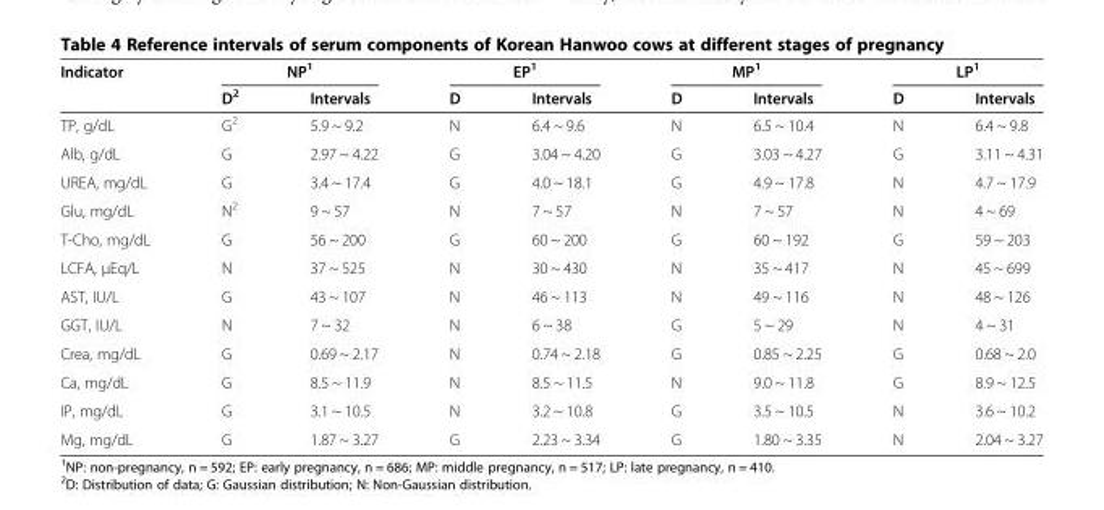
<table><thead><tr><td rowspan="2">Indicator</td><td colspan="2">NP<sup>1</sup></td><td colspan="2">EP<sup>1</sup></td><td colspan="2">MP<sup>1</sup></td><td colspan="2">LP<sup>1</sup></td></tr><tr><td>D<sup>2</sup></td><td>Intervals</td><td>D</td><td>Intervals</td><td>D</td><td>Intervals</td><td>D</td><td>Intervals</td></tr></thead><tbody><tr><td>TP, g/dL</td><td>G<sup>2</sup></td><td>5.9 ~ 9.2</td><td>N</td><td>6.4 ~ 9.6</td><td>N</td><td>6.5 ~ 10.4</td><td>N</td><td>6.4 ~ 9.8</td></tr><tr><td>Alb, g/dL</td><td>G</td><td>2.97 ~ 4.22</td><td>G</td><td>3.04 ~ 4.20</td><td>G</td><td>3.03 ~ 4.27</td><td>G</td><td>3.11 ~ 4.31</td></tr><tr><td>UREA, mg/dL</td><td>G</td><td>3.4 ~ 17.4</td><td>G</td><td>4.0 ~ 18.1</td><td>G</td><td>4.9 ~ 17.8</td><td>N</td><td>4.7 ~ 17.9</td></tr><tr><td>Glu, mg/dL</td><td>N<sup>2</sup></td><td>9 ~ 57</td><td>N</td><td>7 ~ 57</td><td>N</td><td>7 ~ 57</td><td>N</td><td>4 ~ 69</td></tr><tr><td>T-Cho, mg/dL</td><td>G</td><td>56 ~ 200</td><td>G</td><td>60 ~ 200</td><td>G</td><td>60 ~ 192</td><td>G</td><td>59 ~ 203</td></tr><tr><td>LCFA, μEq/L</td><td>N</td><td>37 ~ 525</td><td>N</td><td>30 ~ 430</td><td>N</td><td>35 ~ 417</td><td>N</td><td>45 ~ 699</td></tr><tr><td>AST, IU/L</td><td>G</td><td>43 ~ 107</td><td>N</td><td>46 ~ 113</td><td>N</td><td>49 ~ 116</td><td>N</td><td>48 ~ 126</td></tr><tr><td>GGT, IU/L</td><td>N</td><td>7 ~ 32</td><td>N</td><td>6 ~ 38</td><td>G</td><td>5 ~ 29</td><td>N</td><td>4 ~ 31</td></tr><tr><td>Crea, mg/dL</td><td>G</td><td>0.69 ~ 2.17</td><td>N</td><td>0.74 ~ 2.18</td><td>G</td><td>0.85 ~ 2.25</td><td>G</td><td>0.68 ~ 2.0</td></tr><tr><td>Ca, mg/dL</td><td>G</td><td>8.5 ~ 11.9</td><td>N</td><td>8.5 ~ 11.5</td><td>N</td><td>9.0 ~ 11.8</td><td>G</td><td>8.9 ~ 12.5</td></tr><tr><td>IP, mg/dL</td><td>G</td><td>3.1 ~ 10.5</td><td>N</td><td>3.2 ~ 10.8</td><td>G</td><td>3.5 ~ 10.5</td><td>N</td><td>3.6 ~ 10.2</td></tr><tr><td>Mg, mg/dL</td><td>G</td><td>1.87 ~ 3.27</td><td>G</td><td>2.23 ~ 3.34</td><td>G</td><td>1.80 ~ 3.35</td><td>N</td><td>2.04 ~ 3.27</td></tr></tbody></table>